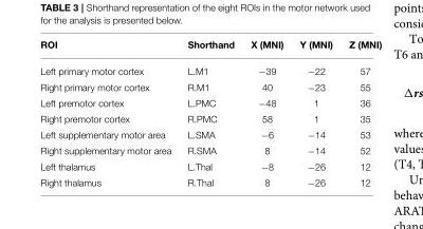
<table><thead><tr><td>ROI</td><td>Shorthand</td><td>X (MNI)</td><td>Y (MNI)</td><td>Z (MNI)</td></tr></thead><tbody><tr><td>Left primary motor cortex</td><td>L.M1</td><td>−39</td><td>−22</td><td>57</td></tr><tr><td>Right primary motor cortex</td><td>R.M1</td><td>40</td><td>−23</td><td>55</td></tr><tr><td>Left premotor cortex</td><td>L.PMC</td><td>−48</td><td>1</td><td>36</td></tr><tr><td>Right premotor cortex</td><td>R.PMC</td><td>58</td><td>1</td><td>35</td></tr><tr><td>Left supplementary motor area</td><td>L.SMA</td><td>−6</td><td>−14</td><td>53</td></tr><tr><td>Right supplementary motor area</td><td>R.SMA</td><td>8</td><td>−14</td><td>52</td></tr><tr><td>Left thalamus</td><td>L.Thal</td><td>−8</td><td>−26</td><td>12</td></tr><tr><td>Right thalamus</td><td>R.Thal</td><td>8</td><td>−26</td><td>12</td></tr></tbody></table>